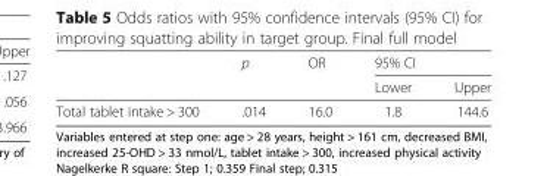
<table><thead><tr><td rowspan="2"></td><td rowspan="2">p</td><td rowspan="2">OR</td><td colspan="2">95% CI</td></tr><tr><td>Lower</td><td>Upper</td></tr></thead><tbody><tr><td>Total tablet intake &gt; 300</td><td>.014</td><td>16.0</td><td>1.8</td><td>144.6</td></tr></tbody></table>